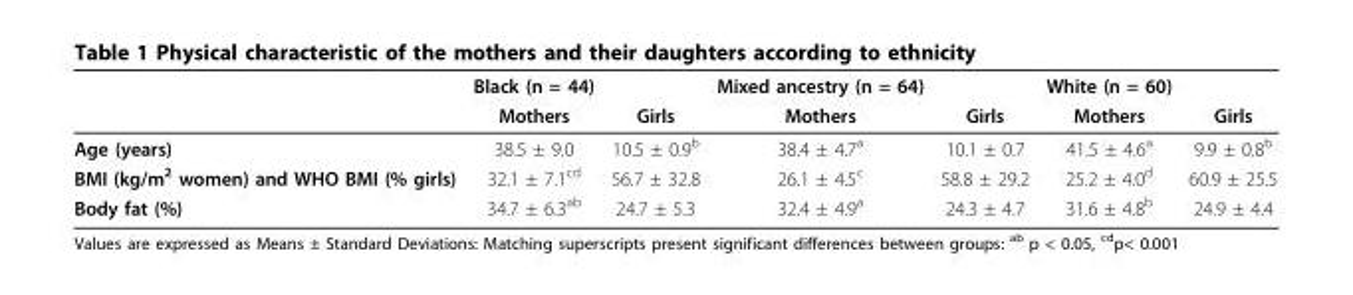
<table><thead><tr><td rowspan="2"></td><td rowspan="2">Black (n = 44) Mothers</td><td rowspan="2">Girls</td><td rowspan="2">Mixed ancestry (n = 64) Mothers</td><td rowspan="2">Girls</td><td rowspan="2">White (n = 60) Mothers</td><td rowspan="2">Girls</td></tr><tr></tr></thead><tbody><tr><td>Age (years)</td><td>38.5 ± 9.0</td><td>10.5 ± 0.9<sup>b</sup></td><td>38.4 ± 4.7<sup>a</sup></td><td>10.1 ± 0.7</td><td>41.5 ± 4.6<sup>a</sup></td><td>9.9 ± 0.8<sup>b</sup></td></tr><tr><td>BMI (kg/m<sup>2</sup> women) and WHO BMI (% girls)</td><td>32.1 ± 7.1<sup>cd</sup></td><td>56.7 ± 32.8</td><td>26.1 ± 4.5<sup>c</sup></td><td>58.8 ± 29.2</td><td>25.2 ± 4.0<sup>d</sup></td><td>60.9 ± 25.5</td></tr><tr><td>Body fat (%)</td><td>34.7 ± 6.3<sup>ab</sup></td><td>24.7 ± 5.3</td><td>32.4 ± 4.9<sup>a</sup></td><td>24.3 ± 4.7</td><td>31.6 ± 4.8<sup>b</sup></td><td>24.9 ± 4.4</td></tr></tbody></table>